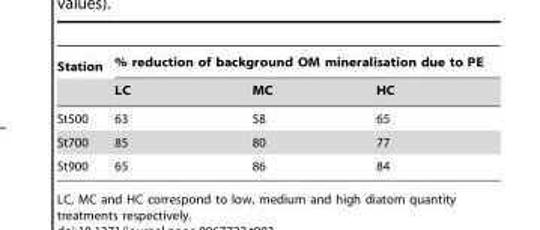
<table><thead><tr><td rowspan="2">Station</td><td colspan="3">% reduction of background OM mineralisation due to PE</td></tr><tr><td>LC</td><td>MC</td><td>HC</td></tr></thead><tbody><tr><td>St500</td><td>63</td><td>58</td><td>65</td></tr><tr><td>St700</td><td>85</td><td>80</td><td>77</td></tr><tr><td>St900</td><td>65</td><td>86</td><td>84</td></tr></tbody></table>